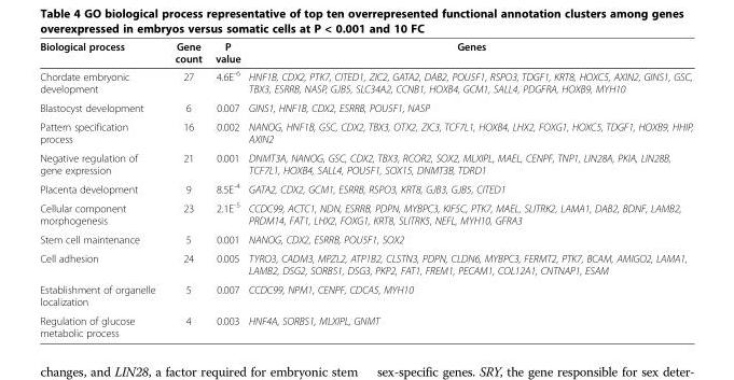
<table><thead><tr><td>Biological process</td><td>Gene count</td><td>P value</td><td>Genes</td></tr></thead><tbody><tr><td>Chordate embryonic development</td><td>27</td><td>4.6E<sup>-6</sup></td><td>HNF1B, CDX2, PTK7, CITED1, ZIC2, GATA2, DAB2, POU5F1, RSPO3, TDGF1, KRT8, HOXC5, AXIN2, GINS1, GSC, TBX3, ESRRB, NASP, GJB5, SLC34A2, CCNB1, HOXB4, GCM1, SALL4, PDGFRA, HOXB9, MYH10</td></tr><tr><td>Blastocyst development</td><td>6</td><td>0.007</td><td>GINS1, HNF1B, CDX2, ESRRB, POU5F1, NASP</td></tr><tr><td>Pattern specification process</td><td>16</td><td>0.002</td><td>NANOG, HNF1B, GSC, CDX2, TBX3, OTX2, ZIC3, TCF7L1, HOXB4, LHX2, FOXG1, HOXC5, TDGF1, HOXB9, HHIP, AXIN2</td></tr><tr><td>Negative regulation of gene expression</td><td>21</td><td>0.001</td><td>DNMT3A, NANOG, GSC, CDX2, TBX3, RCOR2, SOX2, MLXIPL, MAEL, CENPF, TNP1, LIN28A, PKIA, LIN28B, TCF7L1, HOXB4, SALL4, POU5F1, SOX15, DNMT3B, TDRD1</td></tr><tr><td>Placenta development</td><td>9</td><td>8.5E<sup>-4</sup></td><td>GATA2, CDX2, GCM1, ESRRB, RSPO3, KRT8, GJB3, GJB5, CITED1</td></tr><tr><td>Cellular component morphogenesis</td><td>23</td><td>2.1E<sup>-5</sup></td><td>CCDC99, ACTC1, NDN, ESRRB, PDPN, MYBPC3, KIF5C, PTK7, MAEL, SLITRK2, LAMA1, DAB2, BDNF, LAMB2, PRDM14, FAT1, LHX2, FOXG1, KRT8, SLITRK5, NEFL, MYH10, GFRA3</td></tr><tr><td>Stem cell maintenance</td><td>5</td><td>0.001</td><td>NANOG, CDX2, ESRRB, POU5F1, SOX2</td></tr><tr><td>Cell adhesion</td><td>24</td><td>0.005</td><td>TYRO3, CADM3, MPZL2, ATP1B2, CLSTN3, PDPN, CLDN6, MYBPC3, FERMT2, PTK7, BCAM, AMIGO2, LAMA1, LAMB2, DSG2, SORBS1, DSG3, PKP2, FAT1, FREM1, PECAM1, COL12A1, CNTNAP1, ESAM</td></tr><tr><td>Establishment of organelle localization</td><td>5</td><td>0.007</td><td>CCDC99, NPM1, CENPF, CDCA5, MYH10</td></tr><tr><td>Regulation of glucose metabolic process</td><td>4</td><td>0.003</td><td>HNF4A, SORBS1, MLXIPL, GNMT</td></tr></tbody></table>